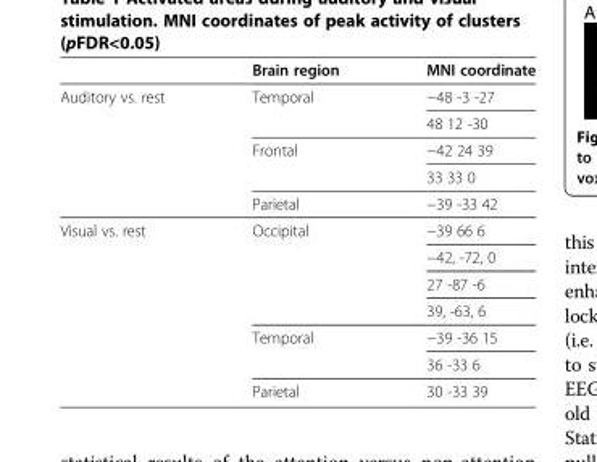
<table><thead><tr><td></td><td>Brain region</td><td>MNI coordinate</td></tr></thead><tbody><tr><td rowspan="5">Auditory vs. rest</td><td rowspan="2">Temporal</td><td>−48 -3 -27</td></tr><tr><td>48 12 -30</td></tr><tr><td rowspan="2">Frontal</td><td>−42 24 39</td></tr><tr><td>33 33 0</td></tr><tr><td>Parietal</td><td>−39 -33 42</td></tr><tr><td rowspan="7">Visual vs. rest</td><td>Occipital</td><td>−39 66 6</td></tr><tr><td></td><td>−42, -72, 0</td></tr><tr><td></td><td>27 -87 -6</td></tr><tr><td></td><td>39, -63, 6</td></tr><tr><td>Temporal</td><td>−39 -36 15</td></tr><tr><td></td><td>36 -33 6</td></tr><tr><td>Parietal</td><td>30 -33 39</td></tr></tbody></table>